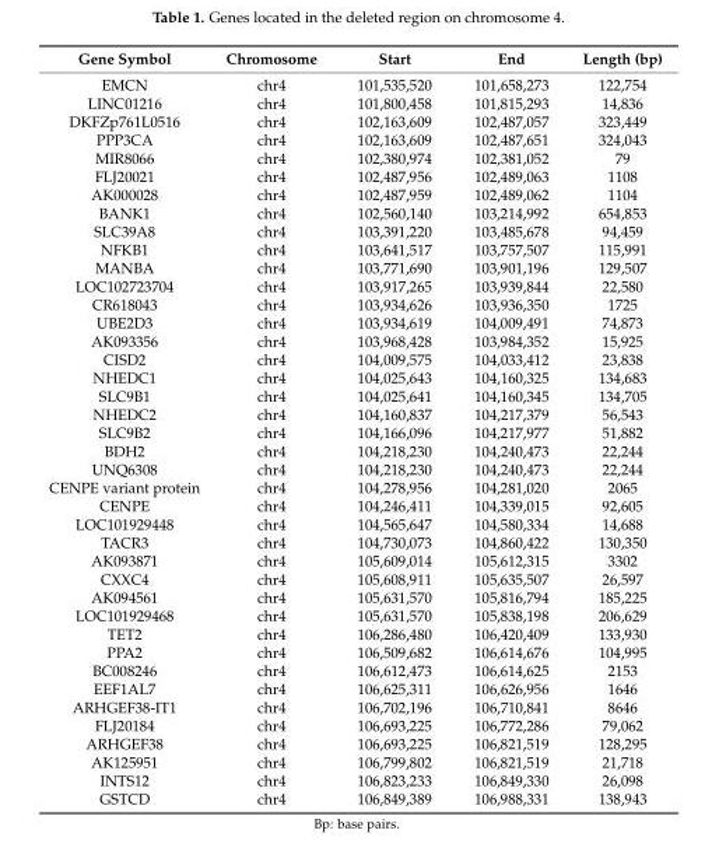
<table><thead><tr><td>Gene Symbol</td><td>Chromosome</td><td>Start</td><td>End</td><td>Length (bp)</td></tr></thead><tbody><tr><td>EMCN</td><td>chr4</td><td>101,535,520</td><td>101,658,273</td><td>122,754</td></tr><tr><td>LINC01216</td><td>chr4</td><td>101,800,458</td><td>101,815,293</td><td>14,836</td></tr><tr><td>DKFZp761L0516</td><td>chr4</td><td>102,163,609</td><td>102,487,057</td><td>323,449</td></tr><tr><td>PPP3CA</td><td>chr4</td><td>102,163,609</td><td>102,487,651</td><td>324,043</td></tr><tr><td>MIR8066</td><td>chr4</td><td>102,380,974</td><td>102,381,052</td><td>79</td></tr><tr><td>FLJ20021</td><td>chr4</td><td>102,487,956</td><td>102,489,063</td><td>1108</td></tr><tr><td>AK000028</td><td>chr4</td><td>102,487,959</td><td>102,489,062</td><td>1104</td></tr><tr><td>BANK1</td><td>chr4</td><td>102,560,140</td><td>103,214,992</td><td>654,853</td></tr><tr><td>SLC39A8</td><td>chr4</td><td>103,391,220</td><td>103,485,678</td><td>94,459</td></tr><tr><td>NFKB1</td><td>chr4</td><td>103,641,517</td><td>103,757,507</td><td>115,991</td></tr><tr><td>MANBA</td><td>chr4</td><td>103,771,690</td><td>103,901,196</td><td>129,507</td></tr><tr><td>LOC102723704</td><td>chr4</td><td>103,917,265</td><td>103,939,844</td><td>22,580</td></tr><tr><td>CR618043</td><td>chr4</td><td>103,934,626</td><td>103,936,350</td><td>1725</td></tr><tr><td>UBE2D3</td><td>chr4</td><td>103,934,619</td><td>104,009,491</td><td>74,873</td></tr><tr><td>AK093356</td><td>chr4</td><td>103,968,428</td><td>103,984,352</td><td>15,925</td></tr><tr><td>CISD2</td><td>chr4</td><td>104,009,575</td><td>104,033,412</td><td>23,838</td></tr><tr><td>NHEDC1</td><td>chr4</td><td>104,025,643</td><td>104,160,325</td><td>134,683</td></tr><tr><td>SLC9B1</td><td>chr4</td><td>104,025,641</td><td>104,160,345</td><td>134,705</td></tr><tr><td>NHEDC2</td><td>chr4</td><td>104,160,837</td><td>104,217,379</td><td>56,543</td></tr><tr><td>SLC9B2</td><td>chr4</td><td>104,166,096</td><td>104,217,977</td><td>51,882</td></tr><tr><td>BDH2</td><td>chr4</td><td>104,218,230</td><td>104,240,473</td><td>22,244</td></tr><tr><td>UNQ6308</td><td>chr4</td><td>104,218,230</td><td>104,240,473</td><td>22,244</td></tr><tr><td>CENPE variant protein</td><td>chr4</td><td>104,278,956</td><td>104,281,020</td><td>2065</td></tr><tr><td>CENPE</td><td>chr4</td><td>104,246,411</td><td>104,339,015</td><td>92,605</td></tr><tr><td>LOC101929448</td><td>chr4</td><td>104,565,647</td><td>104,580,334</td><td>14,688</td></tr><tr><td>TACR3</td><td>chr4</td><td>104,730,073</td><td>104,860,422</td><td>130,350</td></tr><tr><td>AK093871</td><td>chr4</td><td>105,609,014</td><td>105,612,315</td><td>3302</td></tr><tr><td>CXXC4</td><td>chr4</td><td>105,608,911</td><td>105,635,507</td><td>26,597</td></tr><tr><td>AK094561</td><td>chr4</td><td>105,631,570</td><td>105,816,794</td><td>185,225</td></tr><tr><td>LOC101929468</td><td>chr4</td><td>105,631,570</td><td>105,838,198</td><td>206,629</td></tr><tr><td>TET2</td><td>chr4</td><td>106,286,480</td><td>106,420,409</td><td>133,930</td></tr><tr><td>PPA2</td><td>chr4</td><td>106,509,682</td><td>106,614,676</td><td>104,995</td></tr><tr><td>BC008246</td><td>chr4</td><td>106,612,473</td><td>106,614,625</td><td>2153</td></tr><tr><td>EEF1AL7</td><td>chr4</td><td>106,625,311</td><td>106,626,956</td><td>1646</td></tr><tr><td>ARHGEF38-IT1</td><td>chr4</td><td>106,702,196</td><td>106,710,841</td><td>8646</td></tr><tr><td>FLJ20184</td><td>chr4</td><td>106,693,225</td><td>106,772,286</td><td>79,062</td></tr><tr><td>ARHGEF38</td><td>chr4</td><td>106,693,225</td><td>106,821,519</td><td>128,295</td></tr><tr><td>AK125951</td><td>chr4</td><td>106,799,802</td><td>106,821,519</td><td>21,718</td></tr><tr><td>INTS12</td><td>chr4</td><td>106,823,233</td><td>106,849,330</td><td>26,098</td></tr><tr><td>GSTCD</td><td>chr4</td><td>106,849,389</td><td>106,988,331</td><td>138,943</td></tr></tbody></table>